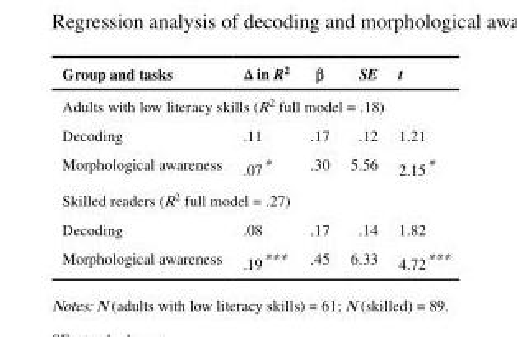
<table><thead><tr><td>Group and tasks</td><td>Δ in R<sup>2</sup></td><td>β</td><td>SE</td><td>t</td></tr></thead><tbody><tr><td colspan="5">Adults with low literacy skills (R<sup>2</sup> full model = .18)</td></tr><tr><td>Decoding</td><td>.11</td><td>.17</td><td>.12</td><td>1.21</td></tr><tr><td>Morphological awareness</td><td>.07*</td><td>.30</td><td>5.56</td><td>2.15*</td></tr><tr><td colspan="5">Skilled readers (R<sup>2</sup> full model = .27)</td></tr><tr><td>Decoding</td><td>.08</td><td>.17</td><td>.14</td><td>1.82</td></tr><tr><td>Morphological awareness</td><td>.19***</td><td>.45</td><td>6.33</td><td>4.72***</td></tr></tbody></table>